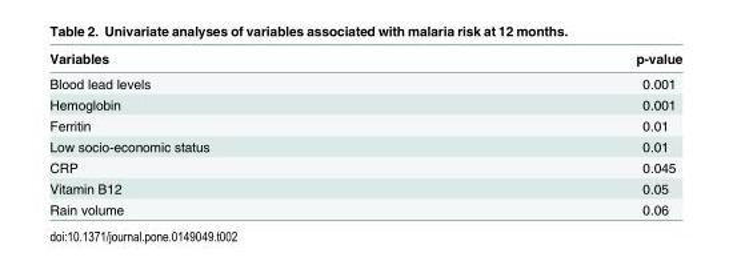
<table><thead><tr><td>Variables</td><td>p-value</td></tr></thead><tbody><tr><td>Blood lead levels</td><td>0.001</td></tr><tr><td>Hemoglobin</td><td>0.001</td></tr><tr><td>Ferritin</td><td>0.01</td></tr><tr><td>Low socio-economic status</td><td>0.01</td></tr><tr><td>CRP</td><td>0.045</td></tr><tr><td>Vitamin B12</td><td>0.05</td></tr><tr><td>Rain volume</td><td>0.06</td></tr></tbody></table>